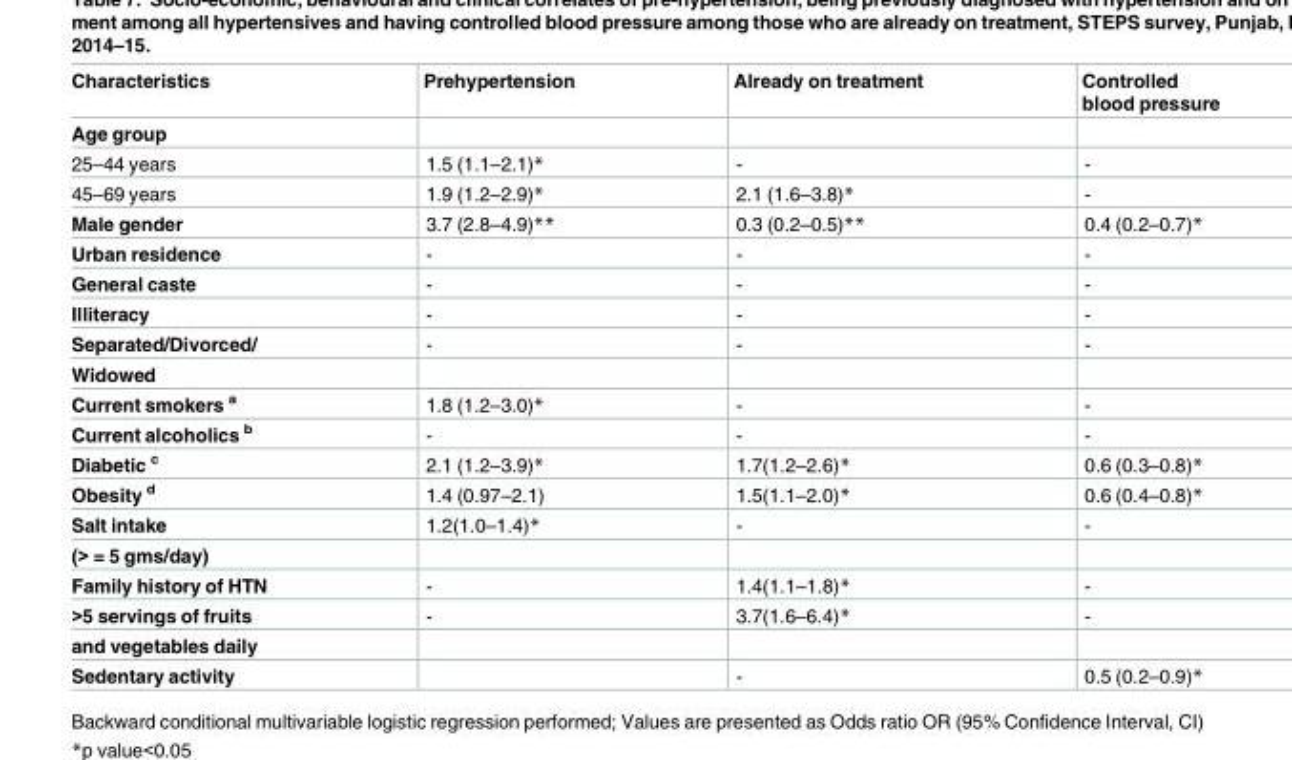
<table><thead><tr><td>Characteristics</td><td>Prehypertension</td><td>Already on treatment</td><td>Controlled blood pressure</td></tr></thead><tbody><tr><td colspan="4">Age group</td></tr><tr><td>25–44 years</td><td>1.5 (1.1–2.1)*</td><td>-</td><td>-</td></tr><tr><td>45–69 years</td><td>1.9 (1.2–2.9)*</td><td>2.1 (1.6–3.8)*</td><td>-</td></tr><tr><td>Male gender</td><td>3.7 (2.8–4.9)**</td><td>0.3 (0.2–0.5)**</td><td>0.4 (0.2–0.7)*</td></tr><tr><td>Urban residence</td><td>-</td><td>-</td><td>-</td></tr><tr><td>General caste</td><td>-</td><td>-</td><td>-</td></tr><tr><td>Illiteracy</td><td>-</td><td>-</td><td>-</td></tr><tr><td>Separated/Divorced/</td><td>-</td><td>-</td><td>-</td></tr><tr><td colspan="4">Widowed</td></tr><tr><td>Current smokers <sup>a</sup></td><td>1.8 (1.2–3.0)*</td><td>-</td><td>-</td></tr><tr><td>Current alcoholics <sup>b</sup></td><td>-</td><td>-</td><td>-</td></tr><tr><td>Diabetic <sup>c</sup></td><td>2.1 (1.2–3.9)*</td><td>1.7(1.2–2.6)*</td><td>0.6 (0.3–0.8)*</td></tr><tr><td>Obesity <sup>d</sup></td><td>1.4 (0.97–2.1)</td><td>1.5(1.1–2.0)*</td><td>0.6 (0.4–0.8)*</td></tr><tr><td>Salt intake</td><td>1.2(1.0–1.4)*</td><td>-</td><td>-</td></tr><tr><td colspan="4">(&gt; = 5 gms/day)</td></tr><tr><td>Family history of HTN</td><td>-</td><td>1.4(1.1–1.8)*</td><td>-</td></tr><tr><td>&gt;5 servings of fruits</td><td>-</td><td>3.7(1.6–6.4)*</td><td>-</td></tr><tr><td colspan="4">and vegetables daily</td></tr><tr><td>Sedentary activity</td><td></td><td>-</td><td>0.5 (0.2–0.9)*</td></tr></tbody></table>